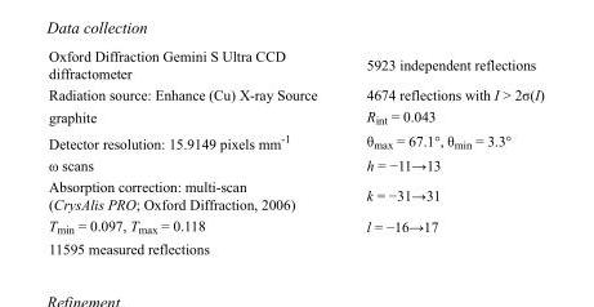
<table><tbody><tr><td>Oxford Diffraction Gemini S Ultra CCD diffractometer</td><td>5923 independent reflections</td></tr><tr><td>Radiation source: Enhance (Cu) X-ray Source</td><td>4674 reflections with I &gt; 2σ(I)</td></tr><tr><td>graphite</td><td>R<sub>int</sub> = 0.043</td></tr><tr><td>Detector resolution: 15.9149 pixels mm<sup>-1</sup></td><td>θ<sub>max</sub> = 67.1°, θ<sub>min</sub> = 3.3°</td></tr><tr><td>ω scans</td><td>h = −11→13</td></tr><tr><td>Absorption correction: multi-scan (CrysAlis PRO; Oxford Diffraction, 2006)</td><td>k = −31→31</td></tr><tr><td>T<sub>min</sub> = 0.097, T<sub>max</sub> = 0.118</td><td>l = −16→17</td></tr><tr><td>11595 measured reflections</td><td></td></tr></tbody></table>